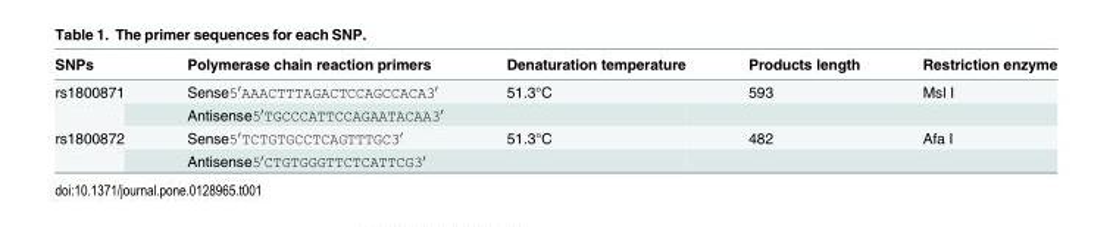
<table><thead><tr><td>SNPs</td><td>Polymerase chain reaction primers</td><td>Denaturation temperature</td><td>Products length</td><td>Restriction enzyme</td></tr></thead><tbody><tr><td rowspan="2">rs1800871</td><td>Sense5′AAACTTTAGACTCCAGCCACA3′</td><td>51.3°C</td><td>593</td><td>Msl I</td></tr><tr><td>Antisense5′TGCCCATTCCAGAATACAA3′</td><td></td><td></td><td></td></tr><tr><td rowspan="2">rs1800872</td><td>Sense5′TCTGTGCCTCAGTTTGC3′</td><td>51.3°C</td><td>482</td><td>Afa I</td></tr><tr><td>Antisense5′CTGTGGGTTCTCATTCG3′</td><td></td><td></td><td></td></tr></tbody></table>